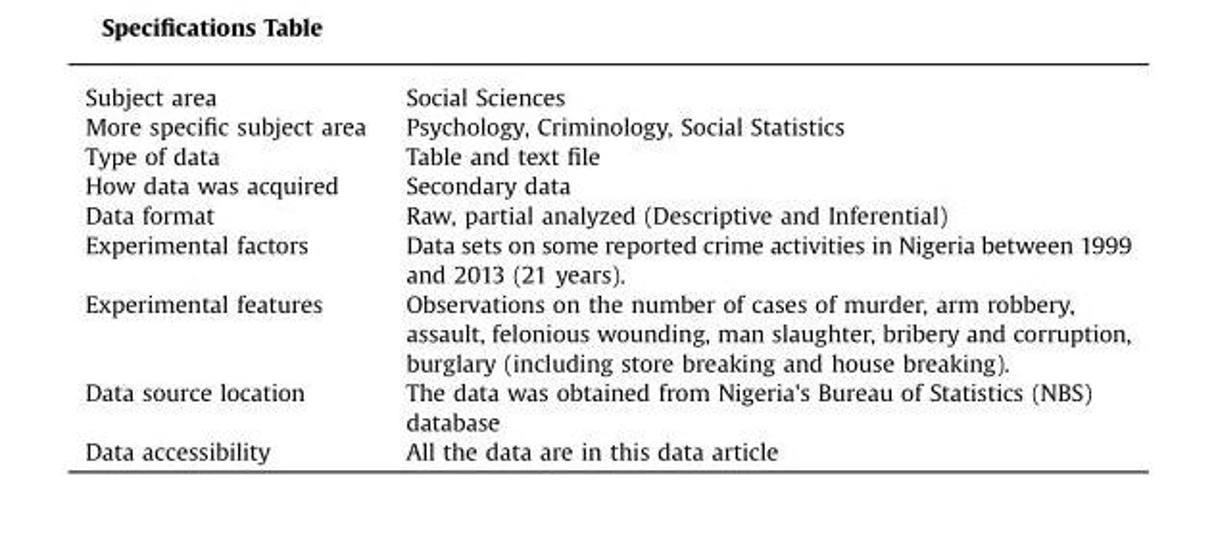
<table><tbody><tr><td>Subject area</td><td>Social Sciences</td></tr><tr><td>More specific subject area</td><td>Psychology, Criminology, Social Statistics</td></tr><tr><td>Type of data</td><td>Table and text file</td></tr><tr><td>How data was acquired</td><td>Secondary data</td></tr><tr><td>Data format</td><td>Raw, partial analyzed (Descriptive and Inferential)</td></tr><tr><td>Experimental factors</td><td>Data sets on some reported crime activities in Nigeria between 1999 and 2013 (21 years).</td></tr><tr><td>Experimental features</td><td>Observations on the number of cases of murder, arm robbery, assault, felonious wounding, man slaughter, bribery and corruption, burglary (including store breaking and house breaking).</td></tr><tr><td>Data source location</td><td>The data was obtained from Nigeria&#x27;s Bureau of Statistics (NBS) database</td></tr><tr><td>Data accessibility</td><td>All the data are in this data article</td></tr></tbody></table>